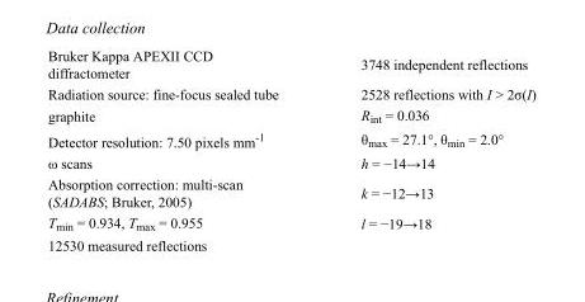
<table><tbody><tr><td>Bruker Kappa APEXII CCD diffractometer</td><td>3748 independent reflections</td></tr><tr><td>Radiation source: fine-focus sealed tube</td><td>2528 reflections with I &gt; 2σ(I)</td></tr><tr><td>graphite</td><td>R<sub>int</sub> = 0.036</td></tr><tr><td>Detector resolution: 7.50 pixels mm<sup>-1</sup></td><td>θ<sub>max</sub> = 27.1°, θ<sub>min</sub> = 2.0°</td></tr><tr><td>ω scans</td><td>h = −14→14</td></tr><tr><td>Absorption correction: multi-scan (SADABS; Bruker, 2005)</td><td>k = −12→13</td></tr><tr><td>T<sub>min</sub> = 0.934, T<sub>max</sub> = 0.955</td><td>l = −19→18</td></tr><tr><td>12530 measured reflections</td><td></td></tr></tbody></table>